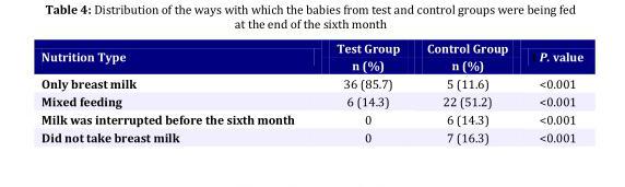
<table><thead><tr><td rowspan="2">Nutrition Type</td><td rowspan="2">Test Group n (%)</td><td rowspan="2">Control Group n (%)</td><td rowspan="2">t P. value</td></tr><tr></tr></thead><tbody><tr><td>Only breast milk</td><td>36 (85.7)</td><td>5 (11.6)</td><td>&lt;0.001</td></tr><tr><td>Mixed feeding</td><td>6 (14.3)</td><td>22 (51.2)</td><td>&lt;0.001</td></tr><tr><td>Milk was interrupted before the sixth month</td><td>0</td><td>6 (14.3)</td><td>&lt;0.001</td></tr><tr><td>Did not take breast milk</td><td>0</td><td>7 (16.3)</td><td>&lt;0.001</td></tr></tbody></table>